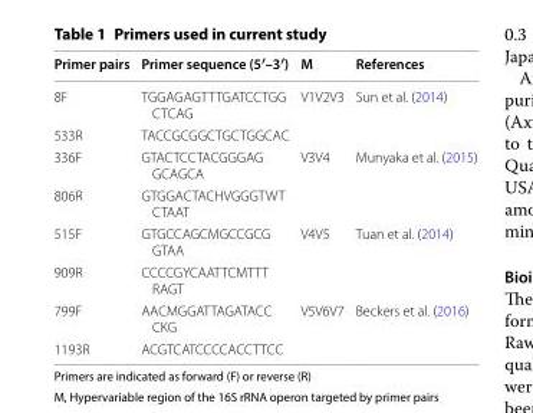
<table><thead><tr><td>Primer pairs</td><td>Primer sequence (5′–3′)</td><td>M</td><td>References</td></tr></thead><tbody><tr><td>8F</td><td>TGG AGA GTT TGA TCC TGG CTCAG</td><td rowspan="2">V1V2V3</td><td rowspan="2">Sun et al. (2014)</td></tr><tr><td>533R</td><td>TAC CGC GGC TGC TGG CAC</td></tr><tr><td>336F</td><td>GTA CTC CTA CGG GAG GCA GCA</td><td rowspan="2">V3V4</td><td rowspan="2">Munyaka et al. (2015)</td></tr><tr><td>806R</td><td>GTG GAC TACHVGGG TWT CTAAT</td></tr><tr><td>515F</td><td>GTG CCA GCMGCC GCG GTAA</td><td rowspan="2">V4V5</td><td rowspan="2">Tuan et al. (2014)</td></tr><tr><td>909R</td><td>CCC CGY CAA TTC MTTT RAG T</td></tr><tr><td>799F</td><td>AACMGGA TTA GAT ACC CKG</td><td rowspan="2">V5V6V7</td><td rowspan="2">Beckers et al. (2016)</td></tr><tr><td>1193R</td><td>ACG TCA TCC CCA CCT TCC</td></tr></tbody></table>